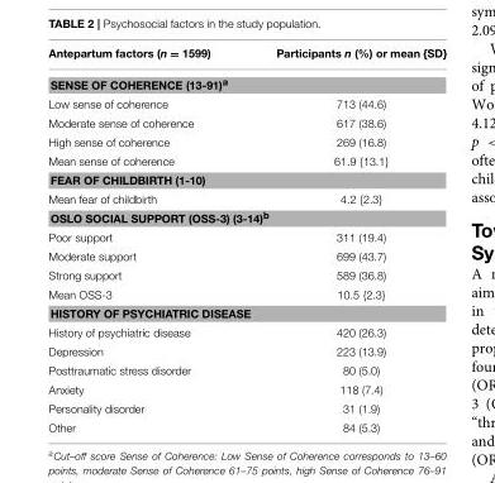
<table><thead><tr><td>Antepartum factors (n = 1599)</td><td>Participants n (%) or mean {SD}</td></tr></thead><tbody><tr><td colspan="2">SENSE OF COHERENCE (13-91)<sup>a</sup></td></tr><tr><td>Low sense of coherence</td><td>713 (44.6)</td></tr><tr><td>Moderate sense of coherence</td><td>617 (38.6)</td></tr><tr><td>High sense of coherence</td><td>269 (16.8)</td></tr><tr><td>Mean sense of coherence</td><td>61.9 {13.1}</td></tr><tr><td colspan="2">FEAR OF CHILDBIRTH (1-10)</td></tr><tr><td>Mean fear of childbirth</td><td>4.2 {2.3}</td></tr><tr><td colspan="2">OSLO SOCIAL SUPPORT (OSS-3) (3-14)<sup>b</sup></td></tr><tr><td>Poor support</td><td>311 (19.4)</td></tr><tr><td>Moderate support</td><td>699 (43.7)</td></tr><tr><td>Strong support</td><td>589 (36.8)</td></tr><tr><td>Mean OSS-3</td><td>10.5 {2.3}</td></tr><tr><td colspan="2">HISTORY OF PSYCHIATRIC DISEASE</td></tr><tr><td>History of psychiatric disease</td><td>420 (26.3)</td></tr><tr><td>Depression</td><td>223 (13.9)</td></tr><tr><td>Posttraumatic stress disorder</td><td>80 (5.0)</td></tr><tr><td>Anxiety</td><td>118 (7.4)</td></tr><tr><td>Personality disorder</td><td>31 (1.9)</td></tr><tr><td>Other</td><td>84 (5.3)</td></tr></tbody></table>